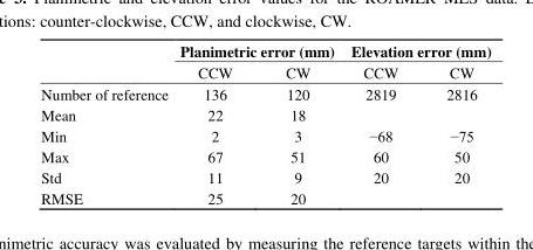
<table><thead><tr><td rowspan="2"></td><td colspan="2">Planimetric error (mm)</td><td colspan="2">Elevation error (mm)</td></tr><tr><td>CCW</td><td>CW</td><td>CCW</td><td>CW</td></tr></thead><tbody><tr><td>Number of reference</td><td>136</td><td>120</td><td>2819</td><td>2816</td></tr><tr><td>Mean</td><td>22</td><td>18</td><td></td><td></td></tr><tr><td>Min</td><td>2</td><td>3</td><td>−68</td><td>−75</td></tr><tr><td>Max</td><td>67</td><td>51</td><td>60</td><td>50</td></tr><tr><td>Std</td><td>11</td><td>9</td><td>20</td><td>20</td></tr><tr><td>RMSE</td><td>25</td><td>20</td><td></td><td></td></tr></tbody></table>